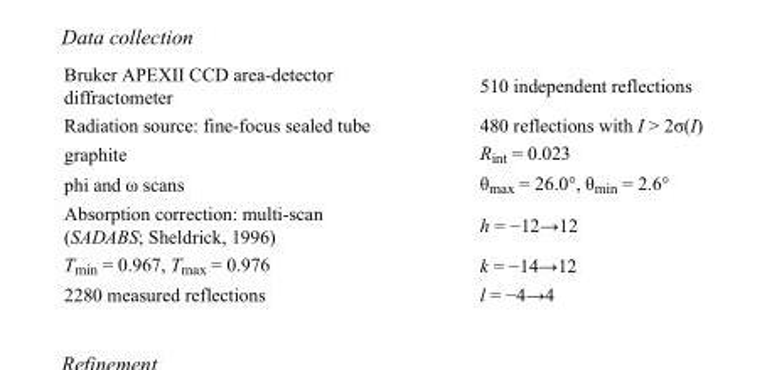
<table><tbody><tr><td>Bruker APEXII CCD area-detector diffractometer</td><td>510 independent reflections</td></tr><tr><td>Radiation source: fine-focus sealed tube</td><td>480 reflections with I &gt; 2σ(I)</td></tr><tr><td>graphite</td><td>R<sub>int</sub> = 0.023</td></tr><tr><td>phi and ω scans</td><td>θ<sub>max</sub> = 26.0°, θ<sub>min</sub> = 2.6°</td></tr><tr><td>Absorption correction: multi-scan (SADABS; Sheldrick, 1996)</td><td>h = −12→12</td></tr><tr><td>T<sub>min</sub> = 0.967, T<sub>max</sub> = 0.976</td><td>k = −14→12</td></tr><tr><td>2280 measured reflections</td><td>l = −4→4</td></tr></tbody></table>